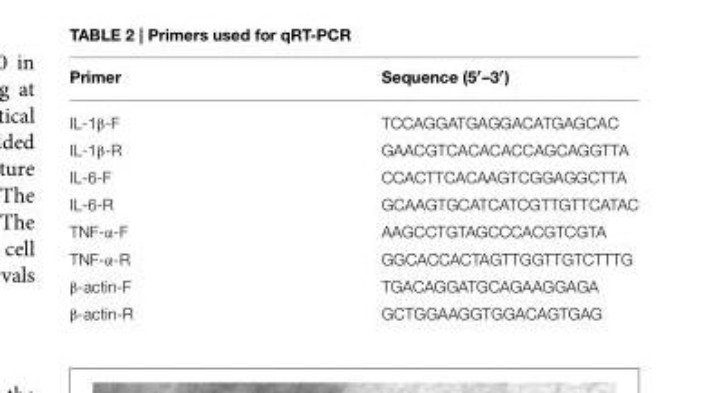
<table><thead><tr><td>Primer</td><td>Sequence (5′–3′)</td></tr></thead><tbody><tr><td>IL-1β-F</td><td>TCCAGGATGAGGACATGAGCAC</td></tr><tr><td>IL-1β-R</td><td>GAACGTCACACACCAGCAGGTTA</td></tr><tr><td>IL-6-F</td><td>CCACTTCACAAGTCGGAGGCTTA</td></tr><tr><td>IL-6-R</td><td>GCAAGTGCATCATCGTTGTTCATAC</td></tr><tr><td>TNF-α-F</td><td>AAGCCTGTAGCCCACGTCGTA</td></tr><tr><td>TNF-α-R</td><td>GGCACCACTAGTTGGTTGTCTTTG</td></tr><tr><td>β-actin-F</td><td>TGACAGGATGCAGAAGGAGA</td></tr><tr><td>β-actin-R</td><td>GCTGGAAGGTGGACAGTGAG</td></tr></tbody></table>